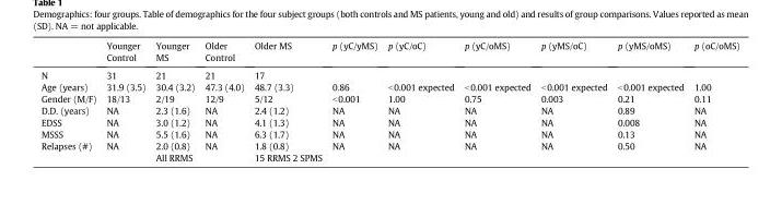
<table><thead><tr><td></td><td>Younger Control</td><td>Younger MS</td><td>Older Control</td><td>Older MS</td><td>p (yC/yMS)</td><td>p (yC/oC)</td><td>p (yC/oMS)</td><td>p (yMS/oC)</td><td>p (yMS/oMS)</td><td>p (oC/oMS)</td></tr></thead><tbody><tr><td>N</td><td>31</td><td>21</td><td>21</td><td>17</td><td></td><td></td><td></td><td></td><td></td><td></td></tr><tr><td>Age (years)</td><td>31.9 (3.5)</td><td>30.4 (3.2)</td><td>47.3 (4.0)</td><td>48.7 (3.3)</td><td>0.86</td><td>&lt;0.001 expected</td><td>&lt;0.001 expected</td><td>&lt;0.001 expected</td><td>&lt;0.001 expected</td><td>1.00</td></tr><tr><td>Gender (M/F)</td><td>18/13</td><td>2/19</td><td>12/9</td><td>5/12</td><td>&lt;0.001</td><td>1.00</td><td>0.75</td><td>0.003</td><td>0.21</td><td>0.11</td></tr><tr><td>D.D. (years)</td><td>NA</td><td>2.3 (1.6)</td><td>NA</td><td>2.4 (1.2)</td><td>NA</td><td>NA</td><td>NA</td><td>NA</td><td>0.89</td><td>NA</td></tr><tr><td>EDSS</td><td>NA</td><td>3.0 (1.2)</td><td>NA</td><td>4.1 (1.3)</td><td>NA</td><td>NA</td><td>NA</td><td>NA</td><td>0.008</td><td>NA</td></tr><tr><td>MSSS</td><td>NA</td><td>5.5 (1.6)</td><td>NA</td><td>6.3 (1.7)</td><td>NA</td><td>NA</td><td>NA</td><td>NA</td><td>0.13</td><td>NA</td></tr><tr><td rowspan="2">Relapses (#)</td><td>NA</td><td>2.0 (0.8)</td><td>NA</td><td>1.8 (0.8)</td><td>NA</td><td>NA</td><td>NA</td><td>NA</td><td>0.50</td><td>NA</td></tr><tr><td></td><td>All RRMS</td><td></td><td>15 RRMS 2 SPMS</td><td></td><td></td><td></td><td></td><td></td><td></td></tr></tbody></table>